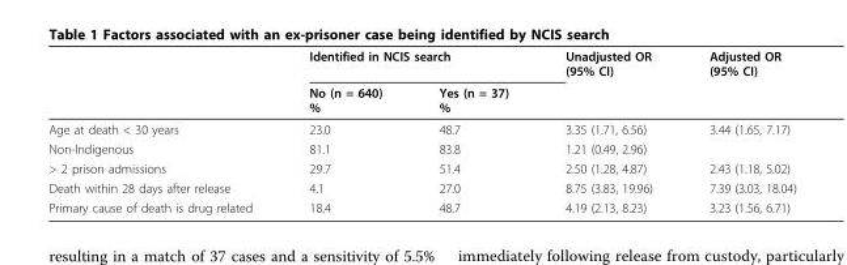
<table><thead><tr><td rowspan="2"></td><td colspan="2">Identified in NCIS search</td><td rowspan="2">Unadjusted OR (95% CI)</td><td rowspan="2">Adjusted OR (95% CI)</td></tr><tr><td>No (n = 640) %</td><td>Yes (n = 37) %</td></tr></thead><tbody><tr><td>Age at death &lt; 30 years</td><td>23.0</td><td>48.7</td><td>3.35 (1.71, 6.56)</td><td>3.44 (1.65, 7.17)</td></tr><tr><td>Non-Indigenous</td><td>81.1</td><td>83.8</td><td>1.21 (0.49, 2.96)</td><td></td></tr><tr><td>&gt; 2 prison admissions</td><td>29.7</td><td>51.4</td><td>2.50 (1.28, 4.87)</td><td>2.43 (1.18, 5.02)</td></tr><tr><td>Death within 28 days after release</td><td>4.1</td><td>27.0</td><td>8.75 (3.83, 19.96)</td><td>7.39 (3.03, 18.04)</td></tr><tr><td>Primary cause of death is drug related</td><td>18.4</td><td>48.7</td><td>4.19 (2.13, 8.23)</td><td>3.23 (1.56, 6.71)</td></tr></tbody></table>